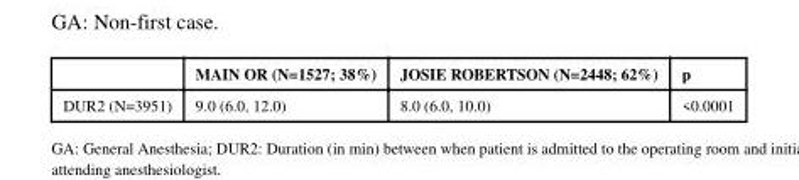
<table><thead><tr><td></td><td>MAIN OR (N=1527; 38%)</td><td>JOSIE ROBERTSON (N=2448; 62%)</td><td>p</td></tr></thead><tbody><tr><td>DUR2 (N=3951)</td><td>9.0 (6.0, 12.0)</td><td>8.0 (6.0, 10.0)</td><td>&lt;0.0001</td></tr></tbody></table>